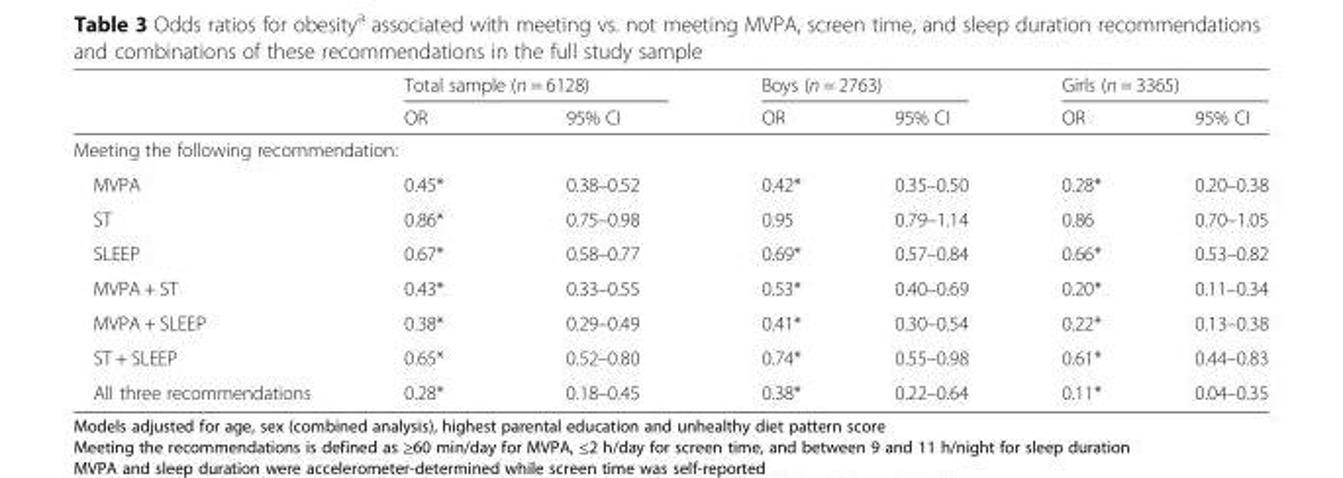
<table><thead><tr><td rowspan="2"></td><td colspan="2">Total sample (n = 6128)</td><td colspan="2">Boys (n = 2763)</td><td colspan="2">Girls (n = 3365)</td></tr><tr><td>OR</td><td>95% CI</td><td>OR</td><td>95% CI</td><td>OR</td><td>95% CI</td></tr></thead><tbody><tr><td colspan="7">Meeting the following recommendation:</td></tr><tr><td>MVPA</td><td>0.45*</td><td>0.38–0.52</td><td>0.42*</td><td>0.35–0.50</td><td>0.28*</td><td>0.20–0.38</td></tr><tr><td>ST</td><td>0.86*</td><td>0.75–0.98</td><td>0.95</td><td>0.79–1.14</td><td>0.86</td><td>0.70–1.05</td></tr><tr><td>SLEEP</td><td>0.67*</td><td>0.58–0.77</td><td>0.69*</td><td>0.57–0.84</td><td>0.66*</td><td>0.53–0.82</td></tr><tr><td>MVPA + ST</td><td>0.43*</td><td>0.33–0.55</td><td>0.53*</td><td>0.40–0.69</td><td>0.20*</td><td>0.11–0.34</td></tr><tr><td>MVPA + SLEEP</td><td>0.38*</td><td>0.29–0.49</td><td>0.41*</td><td>0.30–0.54</td><td>0.22*</td><td>0.13–0.38</td></tr><tr><td>ST + SLEEP</td><td>0.65*</td><td>0.52–0.80</td><td>0.74*</td><td>0.55–0.98</td><td>0.61*</td><td>0.44–0.83</td></tr><tr><td>All three recommendations</td><td>0.28*</td><td>0.18–0.45</td><td>0.38*</td><td>0.22–0.64</td><td>0.11*</td><td>0.04–0.35</td></tr></tbody></table>